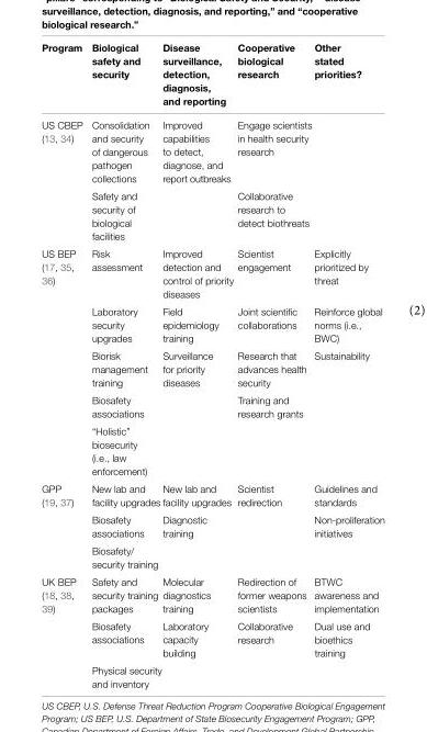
<table><thead><tr><td>Program</td><td>Biological safety and security</td><td>Disease surveillance, detection, diagnosis, and reporting</td><td>cooperative biological research</td><td>Other stated priorities?</td></tr></thead><tbody><tr><td rowspan="2">US CBEP (13, 34)</td><td>Consolidation and security of dangerous pathogen collections</td><td>Improved capabilities to detect, diagnose, and report outbreaks</td><td>Engage scientists in health security research</td><td></td></tr><tr><td>Safety and security of biological facilities</td><td></td><td>Collaborative research to detect biothreats</td><td></td></tr><tr><td rowspan="5">US BEP (17, 35, 36)</td><td>Risk assessment</td><td>Improved detection and control of priority diseases</td><td>Scientist engagement</td><td>Explicitly prioritized by threat</td></tr><tr><td>Laboratory security upgrades</td><td>Field epidemiology training</td><td>Joint scientific collaborations</td><td>Reinforce global norms (i.e., BWC)</td></tr><tr><td>Biorisk management training</td><td>Surveillance for priority diseases</td><td>Research that advances health security</td><td>Sustainability</td></tr><tr><td>Biosafety associations</td><td></td><td>Training and research grants</td><td></td></tr><tr><td>“Holistic” biosecurity (i.e., law enforcement)</td><td></td><td></td><td></td></tr><tr><td rowspan="3">GPP (19, 37)</td><td>New lab and facility upgrades</td><td>New lab and facility upgrades</td><td>Scientist redirection</td><td>Guidelines and standards</td></tr><tr><td>Biosafety associations</td><td>Diagnostic training</td><td></td><td>Non-proliferation initiatives</td></tr><tr><td>Biosafety/ security training</td><td></td><td></td><td></td></tr><tr><td rowspan="3">UK BEP (18, 38, 39)</td><td>Safety and security training packages</td><td>Molecular diagnostics training</td><td>Redirection of former weapons scientists</td><td>BTWC awareness and implementation</td></tr><tr><td>Biosafety associations</td><td>Laboratory capacity building</td><td>Collaborative research</td><td>Dual use and bioethics training</td></tr><tr><td>Physical security and inventory</td><td></td><td></td><td></td></tr></tbody></table>